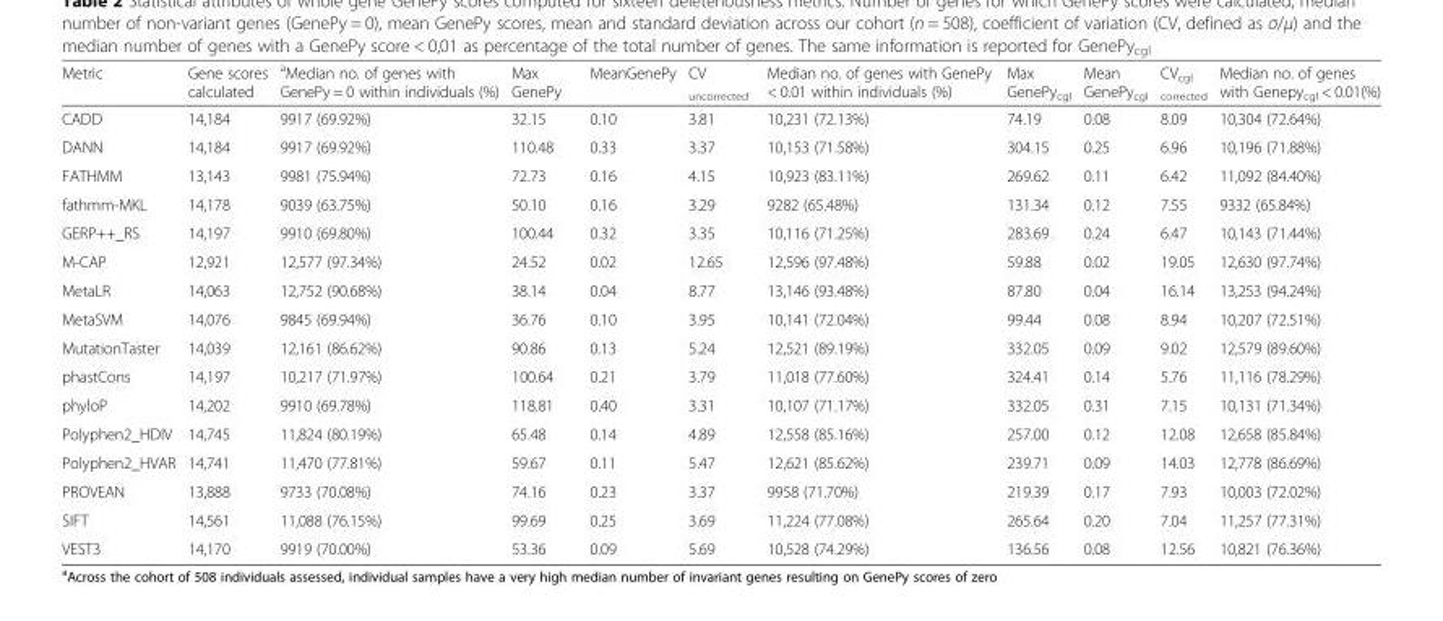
<table><thead><tr><td>Metric</td><td>Gene scores calculated</td><td><sup>a</sup>Median no. of genes with GenePy = 0 within individuals (%)</td><td>Max GenePy</td><td>MeanGenePy</td><td>CV <sub>uncorrected</sub></td><td>Median no. of genes with GenePy &lt; 0.01 within individuals (%)</td><td>Max GenePy<sub>cgl</sub></td><td>Mean GenePy<sub>cgl</sub></td><td>CV<sub>cgl corrected</sub></td><td>Median no. of genes with Genepy<sub>cgl</sub> &lt; 0.01(%)</td></tr></thead><tbody><tr><td>CADD</td><td>14,184</td><td>9917 (69.92%)</td><td>32.15</td><td>0.10</td><td>3.81</td><td>10,231 (72.13%)</td><td>74.19</td><td>0.08</td><td>8.09</td><td>10,304 (72.64%)</td></tr><tr><td>DANN</td><td>14,184</td><td>9917 (69.92%)</td><td>110.48</td><td>0.33</td><td>3.37</td><td>10,153 (71.58%)</td><td>304.15</td><td>0.25</td><td>6.96</td><td>10,196 (71.88%)</td></tr><tr><td>FATHMM</td><td>13,143</td><td>9981 (75.94%)</td><td>72.73</td><td>0.16</td><td>4.15</td><td>10,923 (83.11%)</td><td>269.62</td><td>0.11</td><td>6.42</td><td>11,092 (84.40%)</td></tr><tr><td>fathmm-MKL</td><td>14,178</td><td>9039 (63.75%)</td><td>50.10</td><td>0.16</td><td>3.29</td><td>9282 (65.48%)</td><td>131.34</td><td>0.12</td><td>7.55</td><td>9332 (65.84%)</td></tr><tr><td>GERP++_RS</td><td>14,197</td><td>9910 (69.80%)</td><td>100.44</td><td>0.32</td><td>3.35</td><td>10,116 (71.25%)</td><td>283.69</td><td>0.24</td><td>6.47</td><td>10,143 (71.44%)</td></tr><tr><td>M-CAP</td><td>12,921</td><td>12,577 (97.34%)</td><td>24.52</td><td>0.02</td><td>12.65</td><td>12,596 (97.48%)</td><td>59.88</td><td>0.02</td><td>19.05</td><td>12,630 (97.74%)</td></tr><tr><td>MetaLR</td><td>14,063</td><td>12,752 (90.68%)</td><td>38.14</td><td>0.04</td><td>8.77</td><td>13,146 (93.48%)</td><td>87.80</td><td>0.04</td><td>16.14</td><td>13,253 (94.24%)</td></tr><tr><td>MetaSVM</td><td>14,076</td><td>9845 (69.94%)</td><td>36.76</td><td>0.10</td><td>3.95</td><td>10,141 (72.04%)</td><td>99.44</td><td>0.08</td><td>8.94</td><td>10,207 (72.51%)</td></tr><tr><td>MutationTaster</td><td>14,039</td><td>12,161 (86.62%)</td><td>90.86</td><td>0.13</td><td>5.24</td><td>12,521 (89.19%)</td><td>332.05</td><td>0.09</td><td>9.02</td><td>12,579 (89.60%)</td></tr><tr><td>phastCons</td><td>14,197</td><td>10,217 (71.97%)</td><td>100.64</td><td>0.21</td><td>3.79</td><td>11,018 (77.60%)</td><td>324.41</td><td>0.14</td><td>5.76</td><td>11,116 (78.29%)</td></tr><tr><td>phyloP</td><td>14,202</td><td>9910 (69.78%)</td><td>118.81</td><td>0.40</td><td>3.31</td><td>10,107 (71.17%)</td><td>332.05</td><td>0.31</td><td>7.15</td><td>10,131 (71.34%)</td></tr><tr><td>Polyphen2_HDIV</td><td>14,745</td><td>11,824 (80.19%)</td><td>65.48</td><td>0.14</td><td>4.89</td><td>12,558 (85.16%)</td><td>257.00</td><td>0.12</td><td>12.08</td><td>12,658 (85.84%)</td></tr><tr><td>Polyphen2_HVAR</td><td>14,741</td><td>11,470 (77.81%)</td><td>59.67</td><td>0.11</td><td>5.47</td><td>12,621 (85.62%)</td><td>239.71</td><td>0.09</td><td>14.03</td><td>12,778 (86.69%)</td></tr><tr><td>PROVEAN</td><td>13,888</td><td>9733 (70.08%)</td><td>74.16</td><td>0.23</td><td>3.37</td><td>9958 (71.70%)</td><td>219.39</td><td>0.17</td><td>7.93</td><td>10,003 (72.02%)</td></tr><tr><td>SIFT</td><td>14,561</td><td>11,088 (76.15%)</td><td>99.69</td><td>0.25</td><td>3.69</td><td>11,224 (77.08%)</td><td>265.64</td><td>0.20</td><td>7.04</td><td>11,257 (77.31%)</td></tr><tr><td>VEST3</td><td>14,170</td><td>9919 (70.00%)</td><td>53.36</td><td>0.09</td><td>5.69</td><td>10,528 (74.29%)</td><td>136.56</td><td>0.08</td><td>12.56</td><td>10,821 (76.36%)</td></tr></tbody></table>